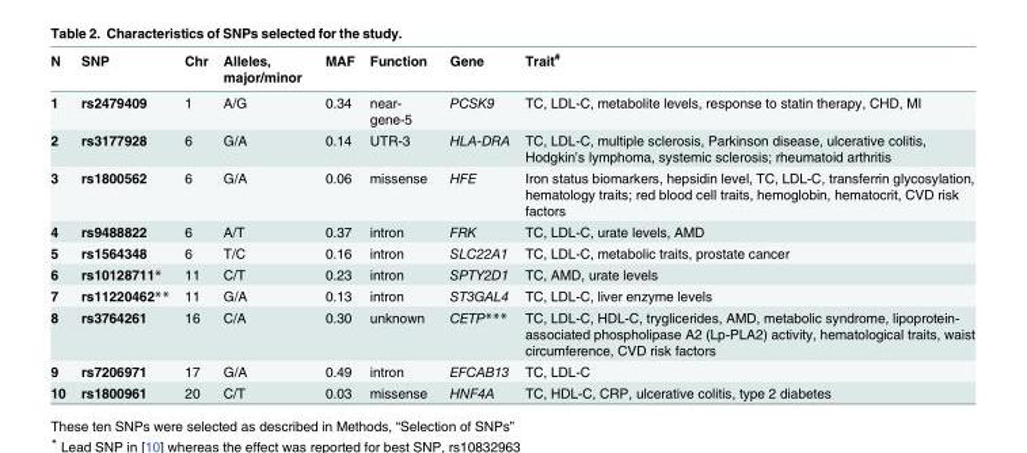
<table><thead><tr><td>N</td><td>SNP</td><td>Chr</td><td>Alleles, major/minor</td><td>MAF</td><td>Function</td><td>Gene</td><td>Trait<sup>#</sup></td></tr></thead><tbody><tr><td>1</td><td>rs2479409</td><td>1</td><td>A/G</td><td>0.34</td><td>near- gene-5</td><td>PCSK9</td><td>TC, LDL-C, metabolite levels, response to statin therapy, CHD, MI</td></tr><tr><td>2</td><td>rs3177928</td><td>6</td><td>G/A</td><td>0.14</td><td>UTR-3</td><td>HLA-DRA</td><td>TC, LDL-C, multiple sclerosis, Parkinson disease, ulcerative colitis, Hodgkin’s lymphoma, systemic sclerosis; rheumatoid arthritis</td></tr><tr><td>3</td><td>rs1800562</td><td>6</td><td>G/A</td><td>0.06</td><td>missense</td><td>HFE</td><td>Iron status biomarkers, hepsidin level, TC, LDL-C, transferrin glycosylation, hematology traits; red blood cell traits, hemoglobin, hematocrit, CVD risk factors</td></tr><tr><td>4</td><td>rs9488822</td><td>6</td><td>A/T</td><td>0.37</td><td>intron</td><td>FRK</td><td>TC, LDL-C, urate levels, AMD</td></tr><tr><td>5</td><td>rs1564348</td><td>6</td><td>T/C</td><td>0.16</td><td>intron</td><td>SLC22A1</td><td>TC, LDL-C, metabolic traits, prostate cancer</td></tr><tr><td>6</td><td>rs10128711*</td><td>11</td><td>C/T</td><td>0.23</td><td>intron</td><td>SPTY2D1</td><td>TC, AMD, urate levels</td></tr><tr><td>7</td><td>rs11220462**</td><td>11</td><td>G/A</td><td>0.13</td><td>intron</td><td>ST3GAL4</td><td>TC, LDL-C, liver enzyme levels</td></tr><tr><td>8</td><td>rs3764261</td><td>16</td><td>C/A</td><td>0.30</td><td>unknown</td><td>CETP***</td><td>TC, LDL-C, HDL-C, tryglicerides, AMD, metabolic syndrome, lipoprotein- associated phospholipase A2 (Lp-PLA2) activity, hematological traits, waist circumference, CVD risk factors</td></tr><tr><td>9</td><td>rs7206971</td><td>17</td><td>G/A</td><td>0.49</td><td>intron</td><td>EFCAB13</td><td>TC, LDL-C</td></tr><tr><td>10</td><td>rs1800961</td><td>20</td><td>C/T</td><td>0.03</td><td>missense</td><td>HNF4A</td><td>TC, HDL-C, CRP, ulcerative colitis, type 2 diabetes</td></tr></tbody></table>